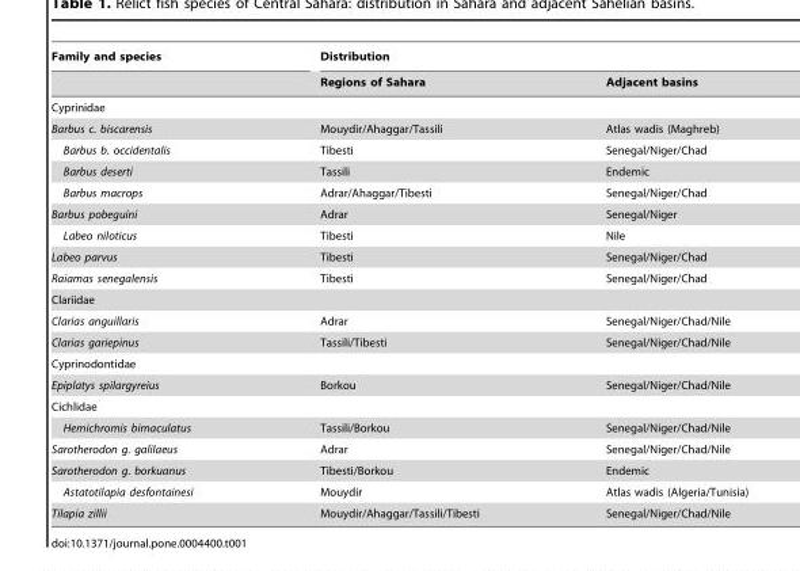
<table><thead><tr><td rowspan="2">Family and species</td><td colspan="2">Distribution</td></tr><tr><td>Regions of Sahara</td><td>Adjacent basins</td></tr></thead><tbody><tr><td colspan="3">Cyprinidae</td></tr><tr><td>Barbus c. biscarensis</td><td>Mouydir/Ahaggar/Tassili</td><td>Atlas wadis (Maghreb)</td></tr><tr><td>Barbus b. occidentalis</td><td>Tibesti</td><td>Senegal/Niger/Chad</td></tr><tr><td>Barbus deserti</td><td>Tassili</td><td>Endemic</td></tr><tr><td>Barbus macrops</td><td>Adrar/Ahaggar/Tibesti</td><td>Senegal/Niger/Chad</td></tr><tr><td>Barbus pobeguini</td><td>Adrar</td><td>Senegal/Niger</td></tr><tr><td>Labeo niloticus</td><td>Tibesti</td><td>Nile</td></tr><tr><td>Labeo parvus</td><td>Tibesti</td><td>Senegal/Niger/Chad</td></tr><tr><td>Raiamas senegalensis</td><td>Tibesti</td><td>Senegal/Niger/Chad</td></tr><tr><td colspan="3">Clariidae</td></tr><tr><td>Clarias anguillaris</td><td>Adrar</td><td>Senegal/Niger/Chad/Nile</td></tr><tr><td>Clarias gariepinus</td><td>Tassili/Tibesti</td><td>Senegal/Niger/Chad/Nile</td></tr><tr><td colspan="3">Cyprinodontidae</td></tr><tr><td>Epiplatys spilargyreius</td><td>Borkou</td><td>Senegal/Niger/Chad/Nile</td></tr><tr><td colspan="3">Cichlidae</td></tr><tr><td>Hemichromis bimaculatus</td><td>Tassili/Borkou</td><td>Senegal/Niger/Chad/Nile</td></tr><tr><td>Sarotherodon g. galilaeus</td><td>Adrar</td><td>Senegal/Niger/Chad/Nile</td></tr><tr><td>Sarotherodon g. borkuanus</td><td>Tibesti/Borkou</td><td>Endemic</td></tr><tr><td>Astatotilapia desfontainesi</td><td>Mouydir</td><td>Atlas wadis (Algeria/Tunisia)</td></tr><tr><td>Tilapia zillii</td><td>Mouydir/Ahaggar/Tassili/Tibesti</td><td>Senegal/Niger/Chad/Nile</td></tr></tbody></table>